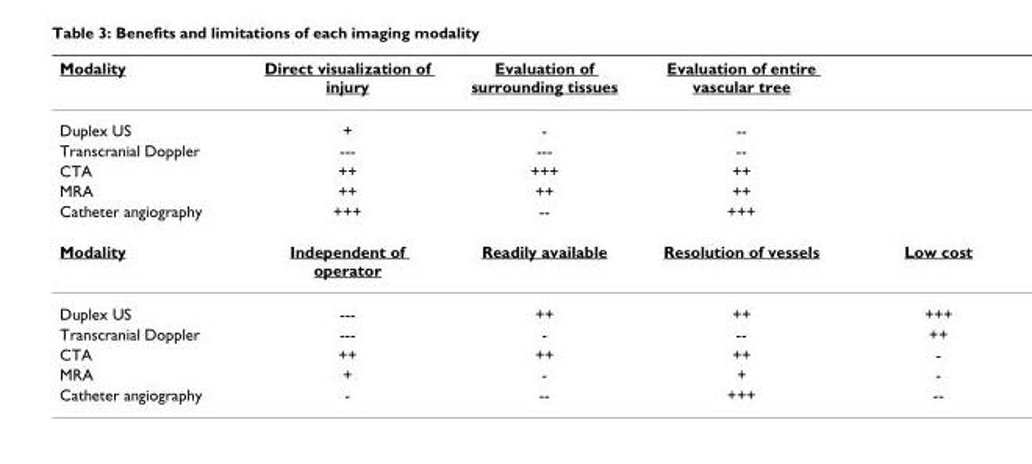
<table><thead><tr><td>Modality</td><td>Direct visualization of injury</td><td>Evaluation of surrounding tissues</td><td>Evaluation of entire vascular tree</td><td></td></tr></thead><tbody><tr><td>Duplex US</td><td>+</td><td>-</td><td>--</td><td></td></tr><tr><td>Transcranial Doppler</td><td>---</td><td>---</td><td>--</td><td></td></tr><tr><td>CTA</td><td>++</td><td>+++</td><td>++</td><td></td></tr><tr><td>MRA</td><td>++</td><td>++</td><td>++</td><td></td></tr><tr><td>Catheter angiography</td><td>+++</td><td>--</td><td>+++</td><td></td></tr><tr><td>Modality</td><td>Independent of operator</td><td>Readily available</td><td>Resolution of vessels</td><td>Low cost</td></tr><tr><td>Duplex US</td><td>---</td><td>++</td><td>++</td><td>+++</td></tr><tr><td>Transcranial Doppler</td><td>---</td><td>-</td><td>--</td><td>++</td></tr><tr><td>CTA</td><td>++</td><td>++</td><td>++</td><td>-</td></tr><tr><td>MRA</td><td>+</td><td>-</td><td>+</td><td>-</td></tr><tr><td>Catheter angiography</td><td>-</td><td>--</td><td>+++</td><td>--</td></tr></tbody></table>